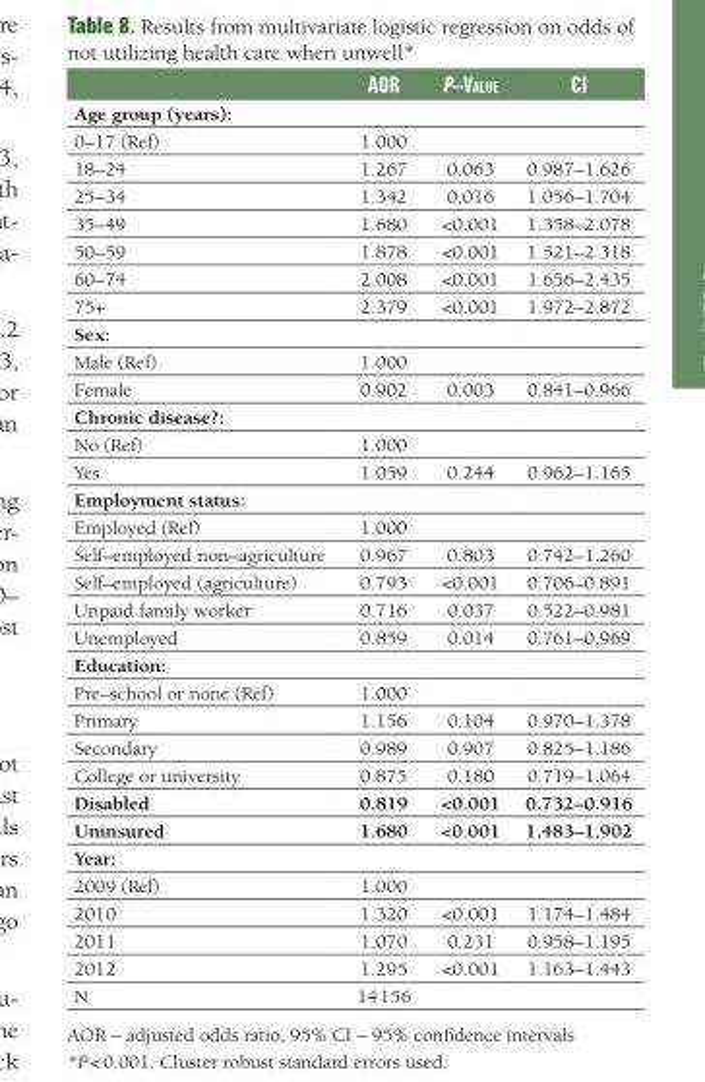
<table><thead><tr><td></td><td>AOR</td><td>P–vAlue</td><td>CI</td></tr></thead><tbody><tr><td colspan="4">Age group (years):</td></tr><tr><td>0–17 (Ref)</td><td>1.000</td><td></td><td></td></tr><tr><td>18–24</td><td>1.267</td><td>0.063</td><td>0.987–1.626</td></tr><tr><td>25–34</td><td>1.342</td><td>0.016</td><td>1.056–1.704</td></tr><tr><td>35–49</td><td>1.680</td><td>&lt;0.001</td><td>1.358–2.078</td></tr><tr><td>50–59</td><td>1.878</td><td>&lt;0.001</td><td>1.521–2.318</td></tr><tr><td>60–74</td><td>2.008</td><td>&lt;0.001</td><td>1.656–2.435</td></tr><tr><td>75+</td><td>2.379</td><td>&lt;0.001</td><td>1.972–2.872</td></tr><tr><td colspan="4">Sex:</td></tr><tr><td>Male (Ref)</td><td>1.000</td><td></td><td></td></tr><tr><td>Female</td><td>0.902</td><td>0.003</td><td>0.841–0.966</td></tr><tr><td colspan="4">Chronic disease?:</td></tr><tr><td>No (Ref)</td><td>1.000</td><td></td><td></td></tr><tr><td>Yes</td><td>1.059</td><td>0.244</td><td>0.962–1.165</td></tr><tr><td colspan="4">Employment status:</td></tr><tr><td>Employed (Ref)</td><td>1.000</td><td></td><td></td></tr><tr><td>Self–employed non–agriculture</td><td>0.967</td><td>0.803</td><td>0.742–1.260</td></tr><tr><td>Self–employed (agriculture)</td><td>0.793</td><td>&lt;0.001</td><td>0.706–0.891</td></tr><tr><td>Unpaid family worker</td><td>0.716</td><td>0.037</td><td>0.522–0.981</td></tr><tr><td>Unemployed</td><td>0.859</td><td>0.014</td><td>0.761–0.969</td></tr><tr><td colspan="4">Education:</td></tr><tr><td>Pre–school or none (Ref)</td><td>1.000</td><td></td><td></td></tr><tr><td>Primary</td><td>1.156</td><td>0.104</td><td>0.970–1.378</td></tr><tr><td>Secondary</td><td>0.989</td><td>0.907</td><td>0.825–1.186</td></tr><tr><td>College or university</td><td>0.875</td><td>0.180</td><td>0.719–1.064</td></tr><tr><td>Disabled</td><td>0.819</td><td>&lt;0.001</td><td>0.732–0.916</td></tr><tr><td>Uninsured</td><td>1.680</td><td>&lt;0.001</td><td>1.483–1.902</td></tr><tr><td colspan="4">Year:</td></tr><tr><td>2009 (Ref)</td><td>1.000</td><td></td><td></td></tr><tr><td>2010</td><td>1.320</td><td>&lt;0.001</td><td>1.174–1.484</td></tr><tr><td>2011</td><td>1.070</td><td>0.231</td><td>0.958–1.195</td></tr><tr><td>2012</td><td>1.295</td><td>&lt;0.001</td><td>1.163–1.443</td></tr><tr><td>N</td><td>14 156</td><td></td><td></td></tr></tbody></table>